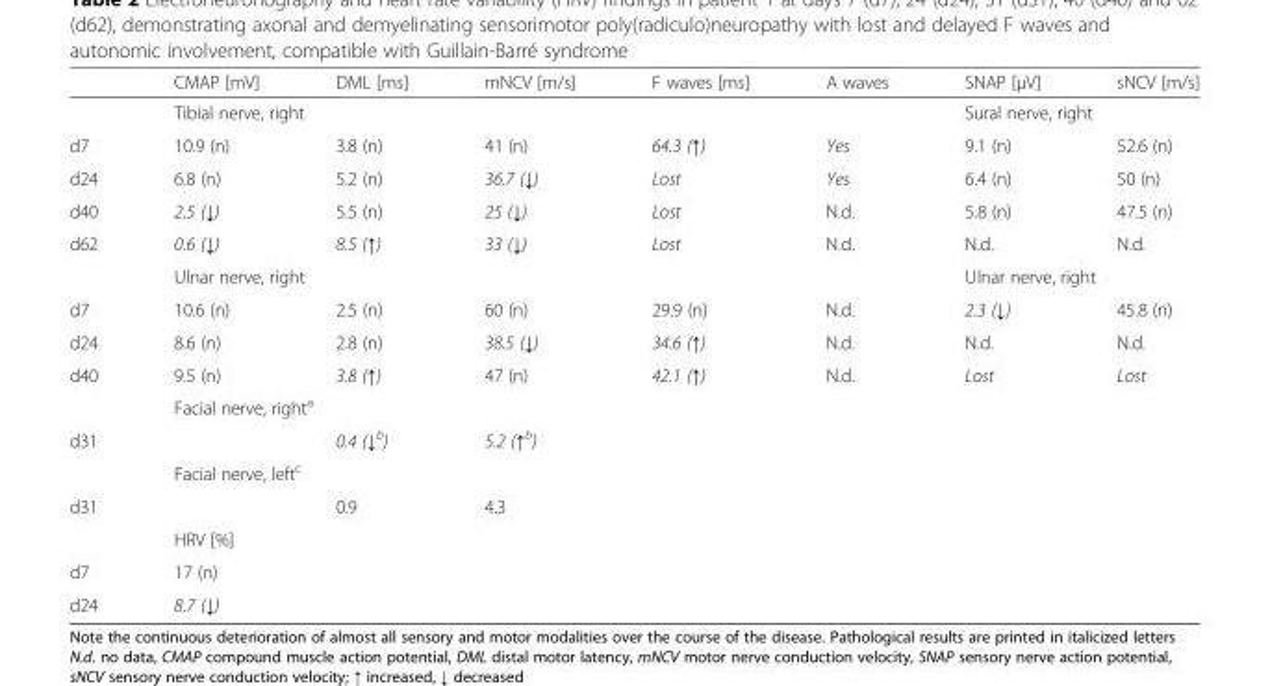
<table><thead><tr><td></td><td>CMAP [mV]</td><td>DML [ms]</td><td>mNCV [m/s]</td><td>F waves [ms]</td><td>A waves</td><td>SNAP [μV]</td><td>sNCV [m/s]</td></tr></thead><tbody><tr><td></td><td colspan="5">Tibial nerve, right</td><td colspan="2">Sural nerve, right</td></tr><tr><td>d7</td><td>10.9 (n)</td><td>3.8 (n)</td><td>41 (n)</td><td>64.3 (↑)</td><td>Yes</td><td>9.1 (n)</td><td>52.6 (n)</td></tr><tr><td>d24</td><td>6.8 (n)</td><td>5.2 (n)</td><td>36.7 (↓)</td><td>Lost</td><td>Yes</td><td>6.4 (n)</td><td>50 (n)</td></tr><tr><td>d40</td><td>2.5 (↓)</td><td>5.5 (n)</td><td>25 (↓)</td><td>Lost</td><td>N.d.</td><td>5.8 (n)</td><td>47.5 (n)</td></tr><tr><td rowspan="2">d62</td><td>0.6 (↓)</td><td>8.5 (↑)</td><td>33 (↓)</td><td>Lost</td><td>N.d.</td><td>N.d.</td><td>N.d.</td></tr><tr><td colspan="5">Ulnar nerve, right</td><td colspan="2">Ulnar nerve, right</td></tr><tr><td>d7</td><td>10.6 (n)</td><td>2.5 (n)</td><td>60 (n)</td><td>29.9 (n)</td><td>N.d.</td><td>2.3 (↓)</td><td>45.8 (n)</td></tr><tr><td>d24</td><td>8.6 (n)</td><td>2.8 (n)</td><td>38.5 (↓)</td><td>34.6 (↑)</td><td>N.d.</td><td>N.d.</td><td>N.d.</td></tr><tr><td rowspan="2">d40</td><td>9.5 (n)</td><td>3.8 (↑)</td><td>47 (n)</td><td>42.1 (↑)</td><td>N.d.</td><td>Lost</td><td>Lost</td></tr><tr><td colspan="5">Facial nerve, right<sup>a</sup></td><td colspan="2"></td></tr><tr><td rowspan="2">d31</td><td></td><td>0.4 (↓<sup>b</sup>)</td><td>5.2 (↑<sup>b</sup>)</td><td></td><td></td><td></td><td></td></tr><tr><td colspan="5">Facial nerve, left<sup>c</sup></td><td colspan="2"></td></tr><tr><td rowspan="2">d31</td><td></td><td>0.9</td><td>4.3</td><td></td><td></td><td></td><td></td></tr><tr><td colspan="5">HRV [%]</td><td colspan="2"></td></tr><tr><td>d7</td><td>17 (n)</td><td></td><td></td><td></td><td></td><td></td><td></td></tr><tr><td>d24</td><td>8.7 (↓)</td><td></td><td></td><td></td><td></td><td></td><td></td></tr></tbody></table>